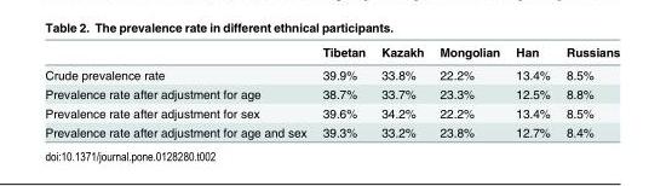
<table><thead><tr><td></td><td>Tibetan</td><td>Kazakh</td><td>Mongolian</td><td>Han</td><td>Russians</td></tr></thead><tbody><tr><td>Crude prevalence rate</td><td>39.9%</td><td>33.8%</td><td>22.2%</td><td>13.4%</td><td>8.5%</td></tr><tr><td>Prevalence rate after adjustment for age</td><td>38.7%</td><td>33.7%</td><td>23.3%</td><td>12.5%</td><td>8.8%</td></tr><tr><td>Prevalence rate after adjustment for sex</td><td>39.6%</td><td>34.2%</td><td>22.2%</td><td>13.4%</td><td>8.5%</td></tr><tr><td>Prevalence rate after adjustment for age and sex</td><td>39.3%</td><td>33.2%</td><td>23.8%</td><td>12.7%</td><td>8.4%</td></tr></tbody></table>